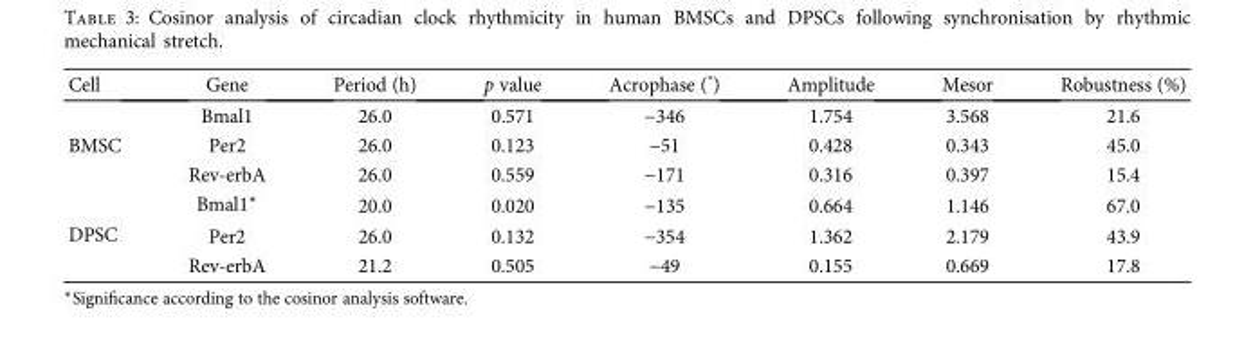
<table><thead><tr><td>Cell</td><td>Gene</td><td>Period (h)</td><td>p value</td><td>Acrophase (°)</td><td>Amplitude</td><td>Mesor</td><td>Robustness (%)</td></tr></thead><tbody><tr><td rowspan="3">BMSC</td><td>Bmal1</td><td>26.0</td><td>0.571</td><td>−346</td><td>1.754</td><td>3.568</td><td>21.6</td></tr><tr><td>Per2</td><td>26.0</td><td>0.123</td><td>−51</td><td>0.428</td><td>0.343</td><td>45.0</td></tr><tr><td>Rev-erbA</td><td>26.0</td><td>0.559</td><td>−171</td><td>0.316</td><td>0.397</td><td>15.4</td></tr><tr><td rowspan="3">DPSC</td><td>Bmal1∗</td><td>20.0</td><td>0.020</td><td>−135</td><td>0.664</td><td>1.146</td><td>67.0</td></tr><tr><td>Per2</td><td>26.0</td><td>0.132</td><td>−354</td><td>1.362</td><td>2.179</td><td>43.9</td></tr><tr><td>Rev-erbA</td><td>21.2</td><td>0.505</td><td>−49</td><td>0.155</td><td>0.669</td><td>17.8</td></tr></tbody></table>